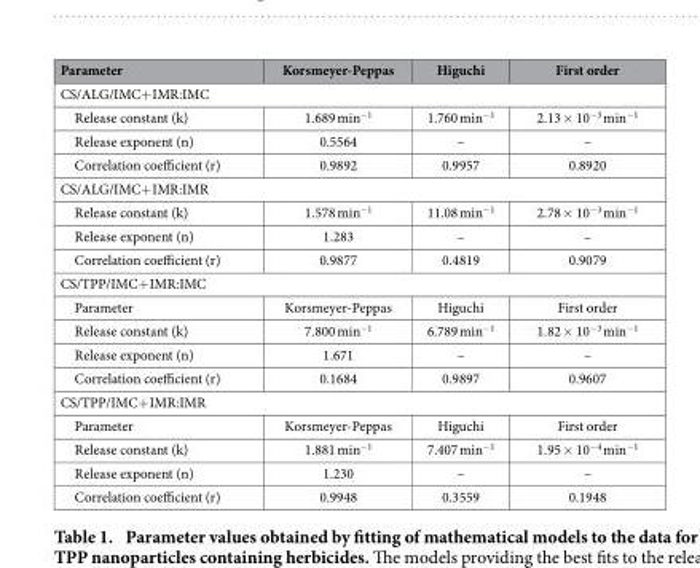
<table><thead><tr><td>Parameter</td><td>Korsmeyer-Peppas</td><td>Higuchi</td><td>First order</td></tr></thead><tbody><tr><td colspan="4">CS/ALG/IMC+ IMR:IMC</td></tr><tr><td>Release constant (k)</td><td>1.689 min<sup>−1</sup></td><td>1.760 min<sup>−1</sup></td><td>2.13 × 10<sup>−3</sup> min<sup>−1</sup></td></tr><tr><td>Release exponent (n)</td><td>0.5564</td><td>–</td><td>–</td></tr><tr><td>Correlation coefficient (r)</td><td>0.9892</td><td>0.9957</td><td>0.8920</td></tr><tr><td colspan="4">CS/ALG/IMC+ IMR:IMR</td></tr><tr><td>Release constant (k)</td><td>1.578 min<sup>−1</sup></td><td>11.08 min<sup>−1</sup></td><td>2.78 × 10<sup>−3</sup> min<sup>−1</sup></td></tr><tr><td>Release exponent (n)</td><td>1.283</td><td>–</td><td>–</td></tr><tr><td>Correlation coefficient (r)</td><td>0.9877</td><td>0.4819</td><td>0.9079</td></tr><tr><td colspan="4">CS/TPP/IMC+ IMR:IMC</td></tr><tr><td>Parameter</td><td>Korsmeyer-Peppas</td><td>Higuchi</td><td>First order</td></tr><tr><td>Release constant (k)</td><td>7.800 min<sup>−1</sup></td><td>6.789 min<sup>−1</sup></td><td>1.82 × 10<sup>−3</sup> min<sup>−1</sup></td></tr><tr><td>Release exponent (n)</td><td>1.671</td><td>–</td><td>–</td></tr><tr><td>Correlation coefficient (r)</td><td>0.1684</td><td>0.9897</td><td>0.9607</td></tr><tr><td colspan="4">CS/TPP/IMC+ IMR:IMR</td></tr><tr><td>Parameter</td><td>Korsmeyer-Peppas</td><td>Higuchi</td><td>First order</td></tr><tr><td>Release constant (k)</td><td>1.881 min<sup>−1</sup></td><td>7.407 min<sup>−1</sup></td><td>1.95 × 10<sup>−4</sup> min<sup>−1</sup></td></tr><tr><td>Release exponent (n)</td><td>1.230</td><td>–</td><td>–</td></tr><tr><td>Correlation coefficient (r)</td><td>0.9948</td><td>0.3559</td><td>0.1948</td></tr></tbody></table>